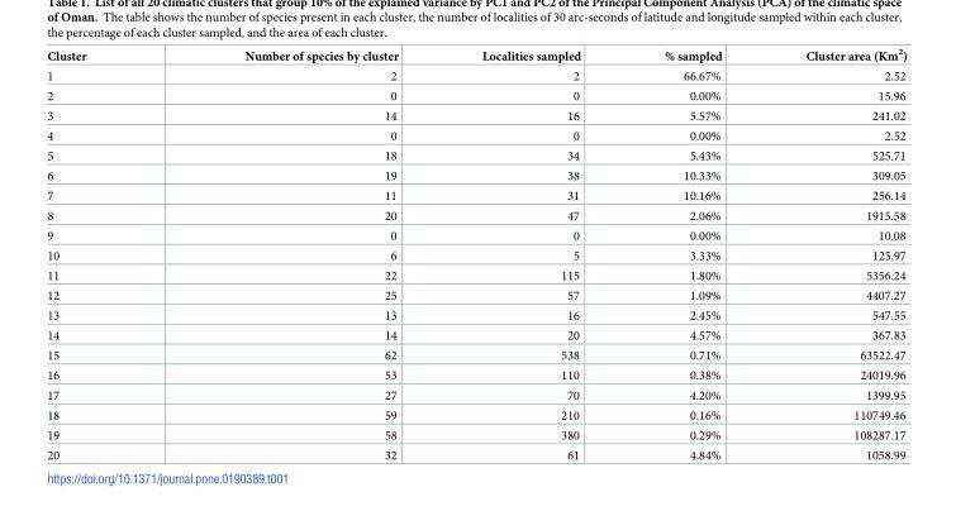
<table><thead><tr><td>Cluster</td><td>Number of species by cluster</td><td>Localities sampled</td><td>% sampled</td><td>Cluster area (Km<sup>2</sup>)</td></tr></thead><tbody><tr><td>1</td><td>2</td><td>2</td><td>66.67%</td><td>2.52</td></tr><tr><td>2</td><td>0</td><td>0</td><td>0.00%</td><td>15.96</td></tr><tr><td>3</td><td>14</td><td>16</td><td>5.57%</td><td>241.02</td></tr><tr><td>4</td><td>0</td><td>0</td><td>0.00%</td><td>2.52</td></tr><tr><td>5</td><td>18</td><td>34</td><td>5.43%</td><td>525.71</td></tr><tr><td>6</td><td>19</td><td>38</td><td>10.33%</td><td>309.05</td></tr><tr><td>7</td><td>11</td><td>31</td><td>10.16%</td><td>256.14</td></tr><tr><td>8</td><td>20</td><td>47</td><td>2.06%</td><td>1915.58</td></tr><tr><td>9</td><td>0</td><td>0</td><td>0.00%</td><td>10.08</td></tr><tr><td>10</td><td>6</td><td>5</td><td>3.33%</td><td>125.97</td></tr><tr><td>11</td><td>22</td><td>115</td><td>1.80%</td><td>5356.24</td></tr><tr><td>12</td><td>25</td><td>57</td><td>1.09%</td><td>4407.27</td></tr><tr><td>13</td><td>13</td><td>16</td><td>2.45%</td><td>547.55</td></tr><tr><td>14</td><td>14</td><td>20</td><td>4.57%</td><td>367.83</td></tr><tr><td>15</td><td>62</td><td>538</td><td>0.71%</td><td>63522.47</td></tr><tr><td>16</td><td>53</td><td>110</td><td>0.38%</td><td>24019.96</td></tr><tr><td>17</td><td>27</td><td>70</td><td>4.20%</td><td>1399.95</td></tr><tr><td>18</td><td>59</td><td>210</td><td>0.16%</td><td>110749.46</td></tr><tr><td>19</td><td>58</td><td>380</td><td>0.29%</td><td>108287.17</td></tr><tr><td>20</td><td>32</td><td>61</td><td>4.84%</td><td>1058.99</td></tr></tbody></table>